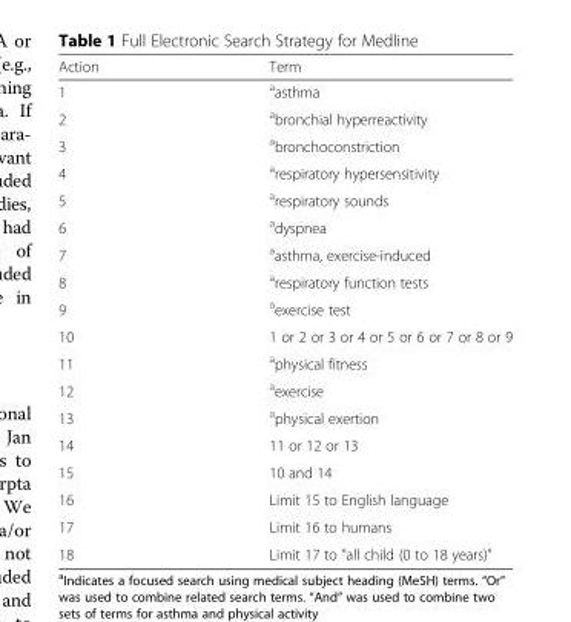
<table><thead><tr><td>Action</td><td>Term</td></tr></thead><tbody><tr><td>1</td><td><sup>a</sup>asthma</td></tr><tr><td>2</td><td><sup>a</sup>bronchial hyperreactivity</td></tr><tr><td>3</td><td><sup>a</sup>bronchoconstriction</td></tr><tr><td>4</td><td><sup>a</sup>respiratory hypersensitivity</td></tr><tr><td>5</td><td><sup>a</sup>respiratory sounds</td></tr><tr><td>6</td><td><sup>a</sup>dyspnea</td></tr><tr><td>7</td><td><sup>a</sup>asthma, exercise-induced</td></tr><tr><td>8</td><td><sup>a</sup>respiratory function tests</td></tr><tr><td>9</td><td><sup>a</sup>exercise test</td></tr><tr><td>10</td><td>1 or 2 or 3 or 4 or 5 or 6 or 7 or 8 or 9</td></tr><tr><td>11</td><td><sup>a</sup>physical fitness</td></tr><tr><td>12</td><td><sup>a</sup>exercise</td></tr><tr><td>13</td><td><sup>a</sup>physical exertion</td></tr><tr><td>14</td><td>11 or 12 or 13</td></tr><tr><td>15</td><td>10 and 14</td></tr><tr><td>16</td><td>Limit 15 to English language</td></tr><tr><td>17</td><td>Limit 16 to humans</td></tr><tr><td>18</td><td>Limit 17 to &quot;all child (0 to 18 years)&quot;</td></tr></tbody></table>